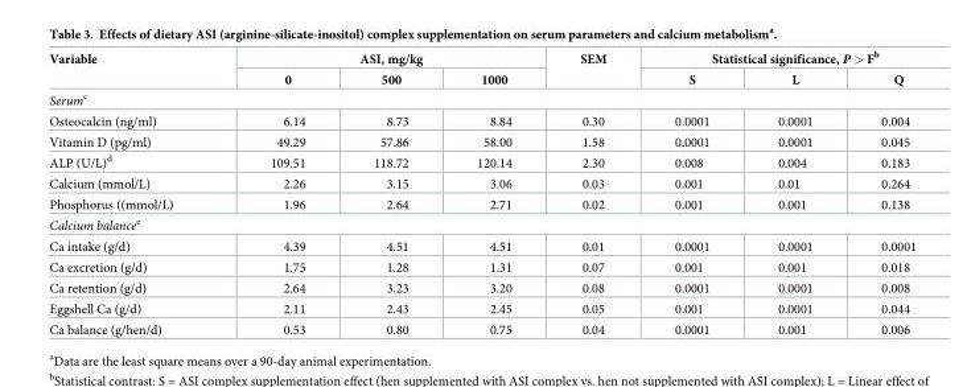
<table><thead><tr><td rowspan="2">Variable</td><td colspan="3">ASI, mg/kg</td><td rowspan="2">SEM</td><td colspan="3">Statistical significance, P &gt; F<sup>b</sup></td></tr><tr><td>0</td><td>500</td><td>1000</td><td>S</td><td>L</td><td>Q</td></tr></thead><tbody><tr><td colspan="8">Serum<sup>c</sup></td></tr><tr><td>Osteocalcin (ng/ml)</td><td>6.14</td><td>8.73</td><td>8.84</td><td>0.30</td><td>0.0001</td><td>0.0001</td><td>0.004</td></tr><tr><td>Vitamin D (pg/ml)</td><td>49.29</td><td>57.86</td><td>58.00</td><td>1.58</td><td>0.0001</td><td>0.0001</td><td>0.045</td></tr><tr><td>ALP (U/L)<sup>d</sup></td><td>109.51</td><td>118.72</td><td>120.14</td><td>2.30</td><td>0.008</td><td>0.004</td><td>0.183</td></tr><tr><td>Calcium (mmol/L)</td><td>2.26</td><td>3.15</td><td>3.06</td><td>0.03</td><td>0.001</td><td>0.01</td><td>0.264</td></tr><tr><td>Phosphorus ((mmol/L)</td><td>1.96</td><td>2.64</td><td>2.71</td><td>0.02</td><td>0.001</td><td>0.001</td><td>0.138</td></tr><tr><td colspan="8">Calcium balance<sup>e</sup></td></tr><tr><td>Ca intake (g/d)</td><td>4.39</td><td>4.51</td><td>4.51</td><td>0.01</td><td>0.0001</td><td>0.0001</td><td>0.0001</td></tr><tr><td>Ca excretion (g/d)</td><td>1.75</td><td>1.28</td><td>1.31</td><td>0.07</td><td>0.001</td><td>0.001</td><td>0.018</td></tr><tr><td>Ca retention (g/d)</td><td>2.64</td><td>3.23</td><td>3.20</td><td>0.08</td><td>0.0001</td><td>0.0001</td><td>0.008</td></tr><tr><td>Eggshell Ca (g/d)</td><td>2.11</td><td>2.43</td><td>2.45</td><td>0.05</td><td>0.001</td><td>0.0001</td><td>0.044</td></tr><tr><td>Ca balance (g/hen/d)</td><td>0.53</td><td>0.80</td><td>0.75</td><td>0.04</td><td>0.0001</td><td>0.001</td><td>0.006</td></tr></tbody></table>